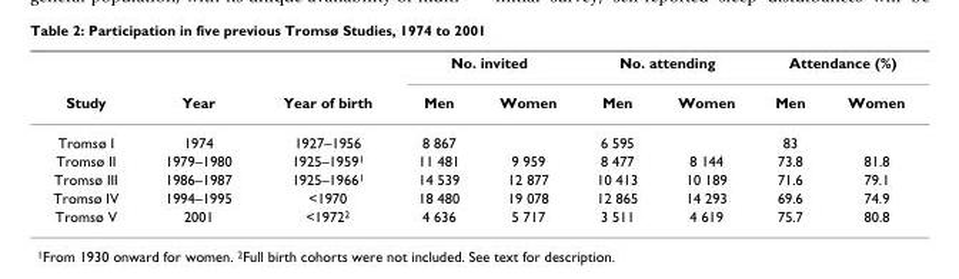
<table><thead><tr><td rowspan="2">Study</td><td rowspan="2">Year</td><td rowspan="2">Year of birth</td><td colspan="2">No. invited</td><td colspan="2">No. attending</td><td colspan="2">Attendance (%)</td></tr><tr><td>Men</td><td>Women</td><td>Men</td><td>Women</td><td>Men</td><td>Women</td></tr></thead><tbody><tr><td>Tromsø I</td><td>1974</td><td>1927–1956</td><td>8 867</td><td></td><td>6 595</td><td></td><td>83</td><td></td></tr><tr><td>Tromsø II</td><td>1979–1980</td><td>1925–1959<sup>1</sup></td><td>11 481</td><td>9 959</td><td>8 477</td><td>8 144</td><td>73.8</td><td>81.8</td></tr><tr><td>Tromsø III</td><td>1986–1987</td><td>1925–1966<sup>1</sup></td><td>14 539</td><td>12 877</td><td>10 413</td><td>10 189</td><td>71.6</td><td>79.1</td></tr><tr><td>Tromsø IV</td><td>1994–1995</td><td>&lt;1970</td><td>18 480</td><td>19 078</td><td>12 865</td><td>14 293</td><td>69.6</td><td>74.9</td></tr><tr><td>Tromsø V</td><td>2001</td><td>&lt;1972<sup>2</sup></td><td>4 636</td><td>5 717</td><td>3 511</td><td>4 619</td><td>75.7</td><td>80.8</td></tr></tbody></table>